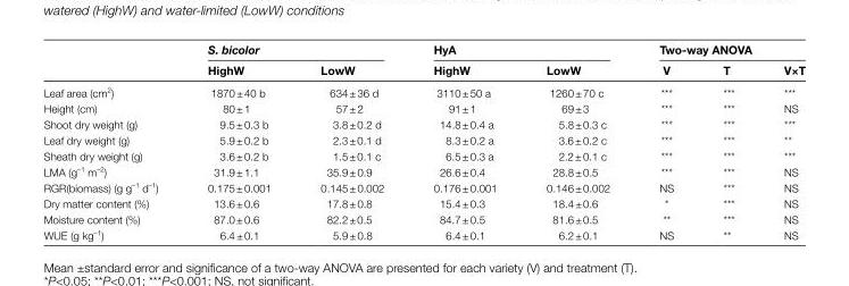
<table><thead><tr><td rowspan="2"></td><td colspan="2">S. bicolor</td><td colspan="2">HyA</td><td colspan="3">Two-way ANOVA</td></tr><tr><td>HighW</td><td>LowW</td><td>HighW</td><td>LowW</td><td>V</td><td>T</td><td>V×T</td></tr></thead><tbody><tr><td>Leaf area (cm<sup>2</sup>)</td><td>1870 ± 40 b</td><td>634 ± 36 d</td><td>3110 ± 50 a</td><td>1260 ± 70 c</td><td>***</td><td>***</td><td>***</td></tr><tr><td>Height (cm)</td><td>80 ± 1</td><td>57 ± 2</td><td>91 ± 1</td><td>69 ± 3</td><td>***</td><td>***</td><td>NS</td></tr><tr><td>Shoot dry weight (g)</td><td>9.5 ± 0.3 b</td><td>3.8 ± 0.2 d</td><td>14.8 ± 0.4 a</td><td>5.8 ± 0.3 c</td><td>***</td><td>***</td><td>***</td></tr><tr><td>Leaf dry weight (g)</td><td>5.9 ± 0.2 b</td><td>2.3 ± 0.1 d</td><td>8.3 ± 0.2 a</td><td>3.6 ± 0.2 c</td><td>***</td><td>***</td><td>**</td></tr><tr><td>Sheath dry weight (g)</td><td>3.6 ± 0.2 b</td><td>1.5 ± 0.1 c</td><td>6.5 ± 0.3 a</td><td>2.2 ± 0.1 c</td><td>***</td><td>***</td><td>***</td></tr><tr><td>LMA (g<sup>–1</sup> m<sup>–2</sup>)</td><td>31.9 ± 1.1</td><td>35.9 ± 0.9</td><td>26.6 ± 0.4</td><td>28.8 ± 0.5</td><td>***</td><td>***</td><td>NS</td></tr><tr><td>RGR(biomass) (g g<sup>–1</sup> d<sup>–1</sup>)</td><td>0.175 ± 0.001</td><td>0.145 ± 0.002</td><td>0.176 ± 0.001</td><td>0.146 ± 0.002</td><td>NS</td><td>***</td><td>NS</td></tr><tr><td>Dry matter content (%)</td><td>13.6 ± 0.6</td><td>17.8 ± 0.8</td><td>15.4 ± 0.3</td><td>18.4 ± 0.6</td><td>*</td><td>***</td><td>NS</td></tr><tr><td>Moisture content (%)</td><td>87.0 ± 0.6</td><td>82.2 ± 0.5</td><td>84.7 ± 0.5</td><td>81.6 ± 0.5</td><td>**</td><td>***</td><td>NS</td></tr><tr><td>WUE (g kg<sup>–1</sup>)</td><td>6.4 ± 0.1</td><td>5.9 ± 0.8</td><td>6.4 ± 0.1</td><td>6.2 ± 0.1</td><td>NS</td><td>**</td><td>NS</td></tr></tbody></table>